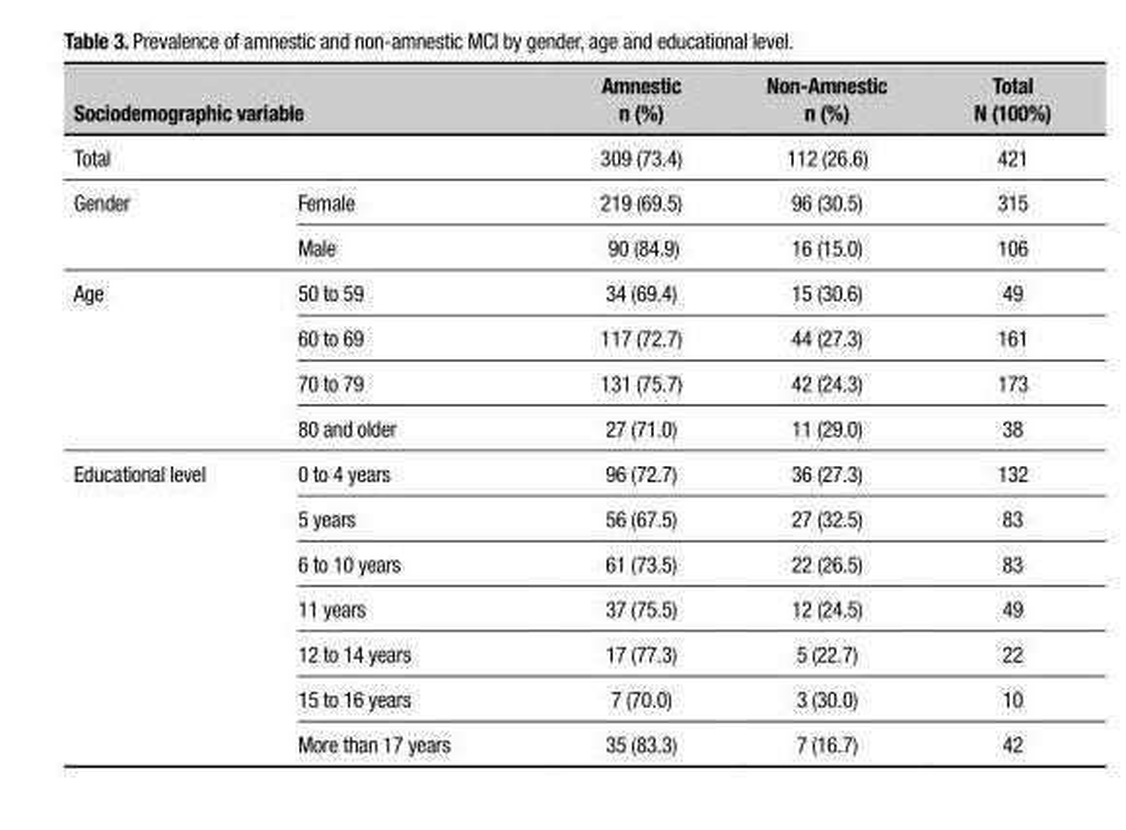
<table><thead><tr><td colspan="2">Sociodemographic variable</td><td rowspan="2">Amnestic n (%) 309 (73.4)</td><td rowspan="2">Non-Amnestic n (%) 112 (26.6)</td><td rowspan="2">Total N (100%) 421</td></tr><tr><td>Total</td><td></td></tr></thead><tbody><tr><td rowspan="2">Gender</td><td>Female</td><td>219 (69.5)</td><td>96 (30.5)</td><td>315</td></tr><tr><td>Male</td><td>90 (84.9)</td><td>16 (15.0)</td><td>106</td></tr><tr><td rowspan="4">Age</td><td>50 to 59</td><td>34 (69.4)</td><td>15 (30.6)</td><td>49</td></tr><tr><td>60 to 69</td><td>117 (72.7)</td><td>44 (27.3)</td><td>161</td></tr><tr><td>70 to 79</td><td>131 (75.7)</td><td>42 (24.3)</td><td>173</td></tr><tr><td>80 and older</td><td>27 (71.0)</td><td>11 (29.0)</td><td>38</td></tr><tr><td rowspan="7">Educational level</td><td>0 to 4 years</td><td>96 (72.7)</td><td>36 (27.3)</td><td>132</td></tr><tr><td>5 years</td><td>56 (67.5)</td><td>27 (32.5)</td><td>83</td></tr><tr><td>6 to 10 years</td><td>61 (73.5)</td><td>22 (26.5)</td><td>83</td></tr><tr><td>11 years</td><td>37 (75.5)</td><td>12 (24.5)</td><td>49</td></tr><tr><td>12 to 14 years</td><td>17 (77.3)</td><td>5 (22.7)</td><td>22</td></tr><tr><td>15 to 16 years</td><td>7 (70.0)</td><td>3 (30.0)</td><td>10</td></tr><tr><td>More than 17 years</td><td>35 (83.3)</td><td>7 (16.7)</td><td>42</td></tr></tbody></table>